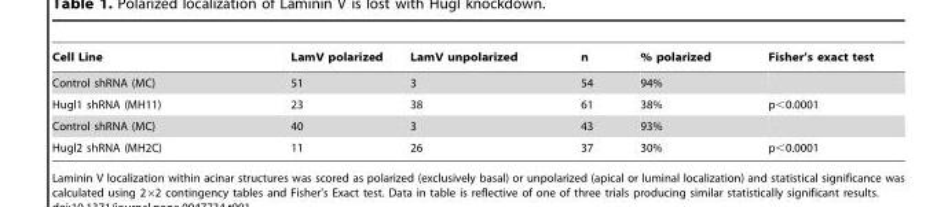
<table><thead><tr><td>Cell Line</td><td>LamV polarized</td><td>LamV unpolarized</td><td>n</td><td>% polarized</td><td>Fisher’s exact test</td></tr></thead><tbody><tr><td>Control shRNA (MC)</td><td>51</td><td>3</td><td>54</td><td>94%</td><td></td></tr><tr><td>Hugl1 shRNA (MH11)</td><td>23</td><td>38</td><td>61</td><td>38%</td><td>p&lt;0.0001</td></tr><tr><td>Control shRNA (MC)</td><td>40</td><td>3</td><td>43</td><td>93%</td><td></td></tr><tr><td>Hugl2 shRNA (MH2C)</td><td>11</td><td>26</td><td>37</td><td>30%</td><td>p&lt;0.0001</td></tr></tbody></table>